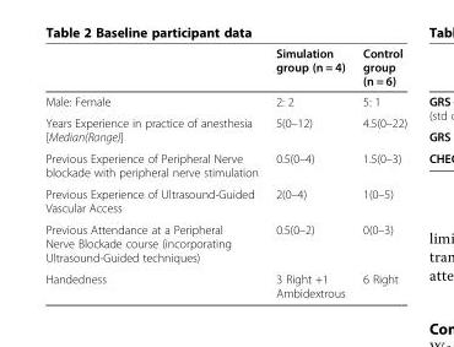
<table><thead><tr><td></td><td>Simulation group (n = 4)</td><td>Control group (n = 6)</td></tr></thead><tbody><tr><td>Male: Female</td><td>2: 2</td><td>5: 1</td></tr><tr><td>Years Experience in practice of anesthesia [Median(Range)]</td><td>5(0–12)</td><td>4.5(0–22)</td></tr><tr><td>Previous Experience of Peripheral Nerve blockade with peripheral nerve stimulation</td><td>0.5(0–4)</td><td>1.5(0–3)</td></tr><tr><td>Previous Experience of Ultrasound-Guided Vascular Access</td><td>2(0–4)</td><td>1(0–5)</td></tr><tr><td>Previous Attendance at a Peripheral Nerve Blockade course (incorporating Ultrasound-Guided techniques)</td><td>0.5(0–2)</td><td>0(0–3)</td></tr><tr><td>Handedness</td><td>3 Right +1 Ambidextrous</td><td>6 Right</td></tr></tbody></table>